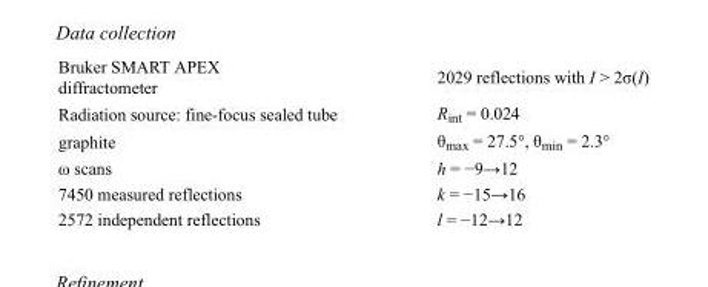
<table><tbody><tr><td>Bruker SMART APEX diffractometer</td><td>2029 reflections with I &gt; 2σ(I)</td></tr><tr><td>Radiation source: fine-focus sealed tube</td><td>R<sub>int</sub> = 0.024</td></tr><tr><td>graphite</td><td>θ<sub>max</sub> = 27.5°, θ<sub>min</sub> = 2.3°</td></tr><tr><td>ω scans</td><td>h = −9→12</td></tr><tr><td>7450 measured reflections</td><td>k = −15→16</td></tr><tr><td>2572 independent reflections</td><td>l = −12→12</td></tr></tbody></table>